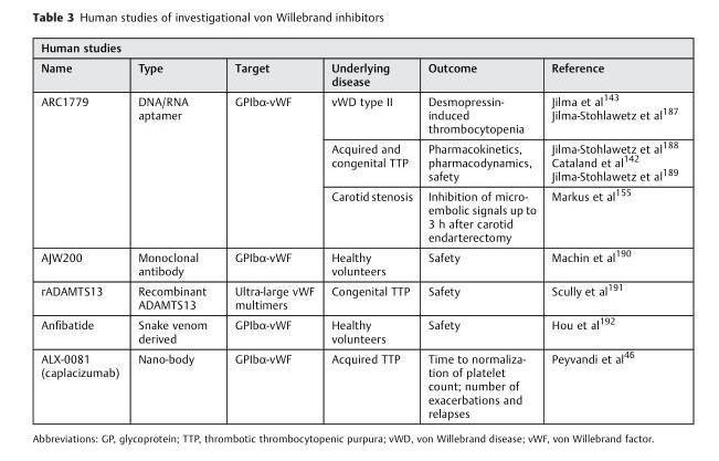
<table><thead><tr><td colspan="6">Human studies</td></tr><tr><td>Name</td><td>Type</td><td>Target</td><td>Underlying disease</td><td>Outcome</td><td>Reference</td></tr></thead><tbody><tr><td rowspan="3">ARC1779</td><td rowspan="3">DNA/RNA aptamer</td><td rowspan="3">GPIbα-vWF</td><td>vWD type II</td><td>Desmopressin- induced thrombocytopenia</td><td>Jilma et al143 Jilma-Stohlawetz et al187</td></tr><tr><td>Acquired and congenital TTP</td><td>Pharmacokinetics, pharmacodynamics, safety</td><td>Jilma-Stohlawetz et al188 Cataland et al142 Jilma-Stohlawetz et al189</td></tr><tr><td>Carotid stenosis</td><td>Inhibition of micro- embolic signals up to 3 h after carotid endarterectomy</td><td>Markus et al155</td></tr><tr><td>AJW200</td><td>Monoclonal antibody</td><td>GPIbα-vWF</td><td>Healthy volunteers</td><td>Safety</td><td>Machin et al190</td></tr><tr><td>rADAMTS13</td><td>Recombinant ADAMTS13</td><td>Ultra-large vWF multimers</td><td>Congenital TTP</td><td>Safety</td><td>Scully et al191</td></tr><tr><td>Anfibatide</td><td>Snake venom derived</td><td>GPIbα-vWF</td><td>Healthy volunteers</td><td>Safety</td><td>Hou et al192</td></tr><tr><td>ALX-0081 (caplacizumab)</td><td>Nano-body</td><td>GPIbα-vWF</td><td>Acquired TTP</td><td>Time to normaliza- tion of platelet count; number of exacerbations and relapses</td><td>Peyvandi et al46</td></tr></tbody></table>